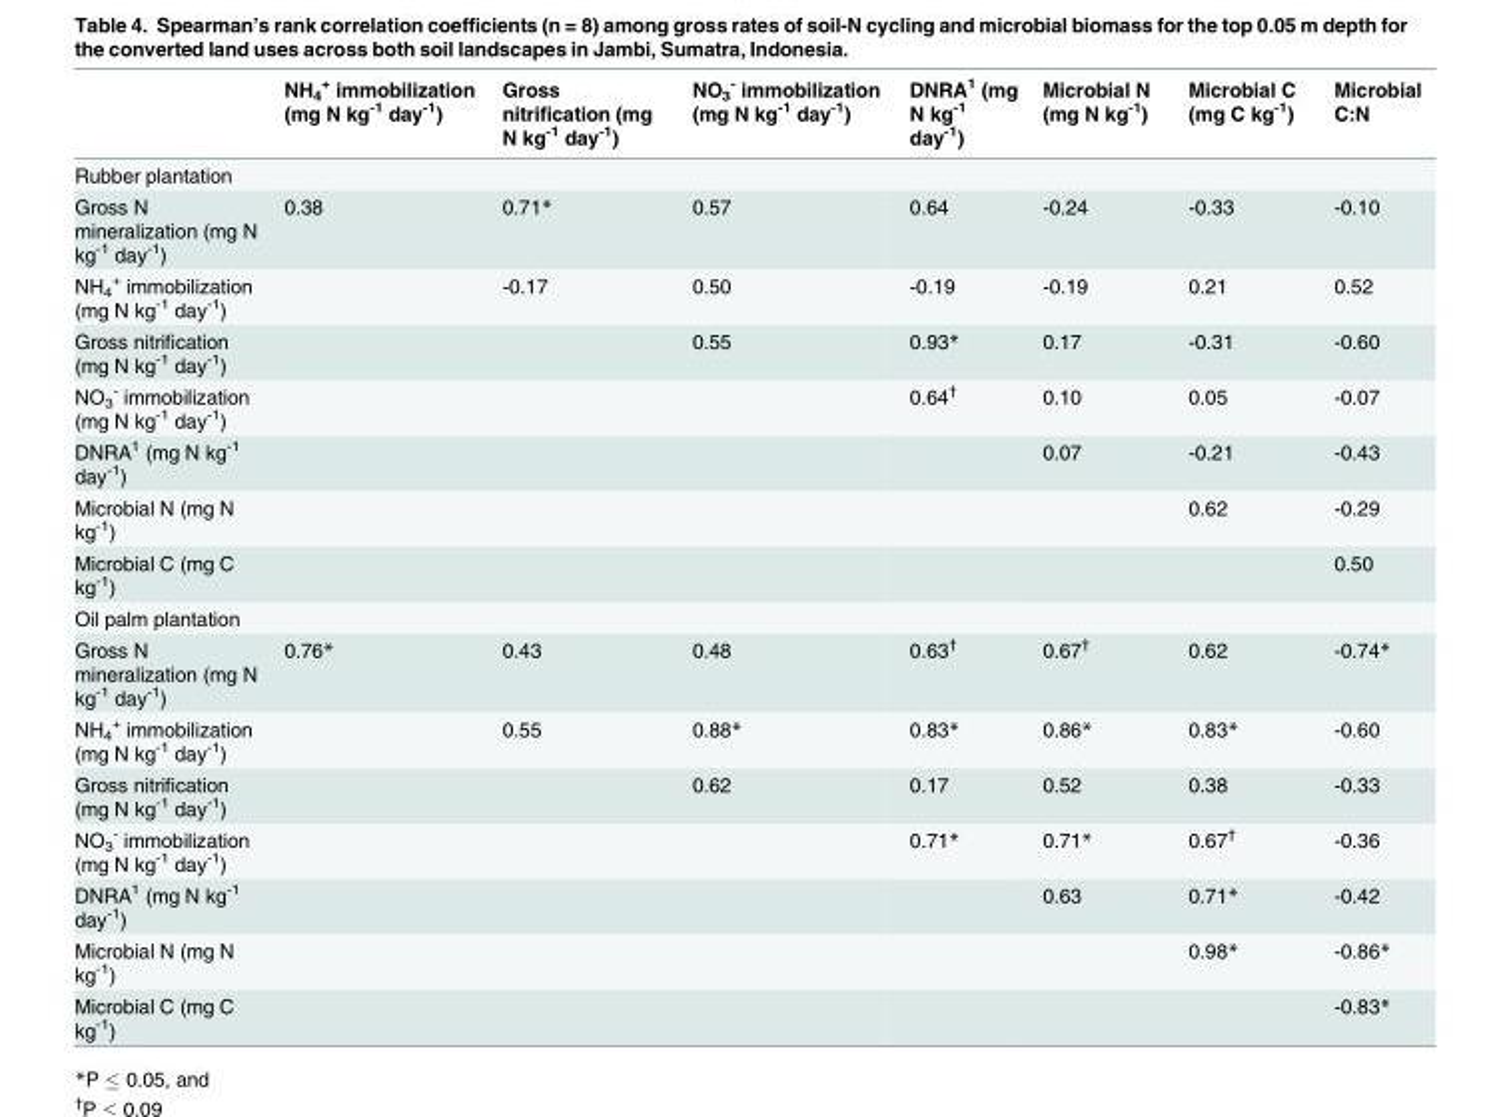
<table><thead><tr><td></td><td>NH<sub>4</sub> <sup>+</sup> immobilization (mg N kg<sup>-1</sup> day<sup>-1</sup>)</td><td>Gross nitrification (mg N kg<sup>-1</sup> day<sup>-1</sup>)</td><td>NO<sub>3</sub> <sup>-</sup> immobilization (mg N kg<sup>-1</sup> day<sup>-1</sup>)</td><td>DNRA<sup>1</sup> (mg N kg<sup>-1</sup> day<sup>-1</sup>)</td><td>Microbial N (mg N kg<sup>-1</sup>)</td><td>Microbial C (mg C kg<sup>-1</sup>)</td><td>Microbial C:N</td></tr></thead><tbody><tr><td colspan="8">Rubber plantation</td></tr><tr><td>Gross N mineralization (mg N kg<sup>-1</sup> day<sup>-1</sup>)</td><td>0.38</td><td>0.71*</td><td>0.57</td><td>0.64</td><td>-0.24</td><td>-0.33</td><td>-0.10</td></tr><tr><td>NH<sub>4</sub> <sup>+</sup> immobilization (mg N kg<sup>-1</sup> day<sup>-1</sup>)</td><td></td><td>-0.17</td><td>0.50</td><td>-0.19</td><td>-0.19</td><td>0.21</td><td>0.52</td></tr><tr><td>Gross nitrification (mg N kg<sup>-1</sup> day<sup>-1</sup>)</td><td></td><td></td><td>0.55</td><td>0.93*</td><td>0.17</td><td>-0.31</td><td>-0.60</td></tr><tr><td>NO<sub>3</sub> <sup>-</sup> immobilization (mg N kg<sup>-1</sup> day<sup>-1</sup>)</td><td></td><td></td><td></td><td>0.64<sup>†</sup></td><td>0.10</td><td>0.05</td><td>-0.07</td></tr><tr><td>DNRA<sup>1</sup> (mg N kg<sup>-1</sup> day<sup>-1</sup>)</td><td></td><td></td><td></td><td></td><td>0.07</td><td>-0.21</td><td>-0.43</td></tr><tr><td>Microbial N (mg N kg<sup>-1</sup>)</td><td></td><td></td><td></td><td></td><td></td><td>0.62</td><td>-0.29</td></tr><tr><td>Microbial C (mg C kg<sup>-1</sup>)</td><td></td><td></td><td></td><td></td><td></td><td></td><td>0.50</td></tr><tr><td colspan="8">Oil palm plantation</td></tr><tr><td>Gross N mineralization (mg N kg<sup>-1</sup> day<sup>-1</sup>)</td><td>0.76*</td><td>0.43</td><td>0.48</td><td>0.63<sup>†</sup></td><td>0.67<sup>†</sup></td><td>0.62</td><td>-0.74*</td></tr><tr><td>NH<sub>4</sub> <sup>+</sup> immobilization (mg N kg<sup>-1</sup> day<sup>-1</sup>)</td><td></td><td>0.55</td><td>0.88*</td><td>0.83*</td><td>0.86*</td><td>0.83*</td><td>-0.60</td></tr><tr><td>Gross nitrification (mg N kg<sup>-1</sup> day<sup>-1</sup>)</td><td></td><td></td><td>0.62</td><td>0.17</td><td>0.52</td><td>0.38</td><td>-0.33</td></tr><tr><td>NO<sub>3</sub> <sup>-</sup> immobilization (mg N kg<sup>-1</sup> day<sup>-1</sup>)</td><td></td><td></td><td></td><td>0.71*</td><td>0.71*</td><td>0.67<sup>†</sup></td><td>-0.36</td></tr><tr><td>DNRA<sup>1</sup> (mg N kg<sup>-1</sup> day<sup>-1</sup>)</td><td></td><td></td><td></td><td></td><td>0.63</td><td>0.71*</td><td>-0.42</td></tr><tr><td>Microbial N (mg N kg<sup>-1</sup>)</td><td></td><td></td><td></td><td></td><td></td><td>0.98*</td><td>-0.86*</td></tr><tr><td>Microbial C (mg C kg<sup>-1</sup>)</td><td></td><td></td><td></td><td></td><td></td><td></td><td>-0.83*</td></tr></tbody></table>